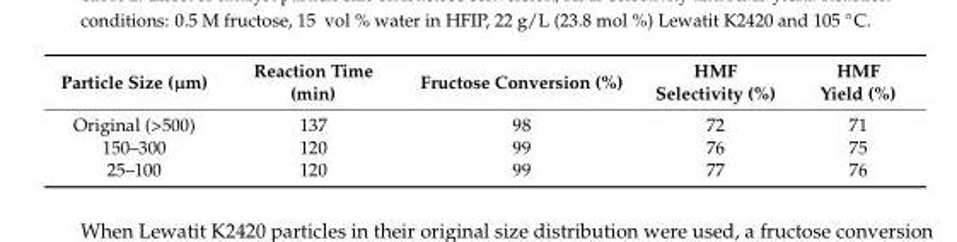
<table><thead><tr><td>Particle Size (µm)</td><td>Reaction Time (min)</td><td>Fructose Conversion (%)</td><td>HMF Selectivity (%)</td><td>HMF Yield (%)</td></tr></thead><tbody><tr><td>Original (&gt;500)</td><td>137</td><td>98</td><td>72</td><td>71</td></tr><tr><td>150–300</td><td>120</td><td>99</td><td>76</td><td>75</td></tr><tr><td>25–100</td><td>120</td><td>99</td><td>77</td><td>76</td></tr></tbody></table>